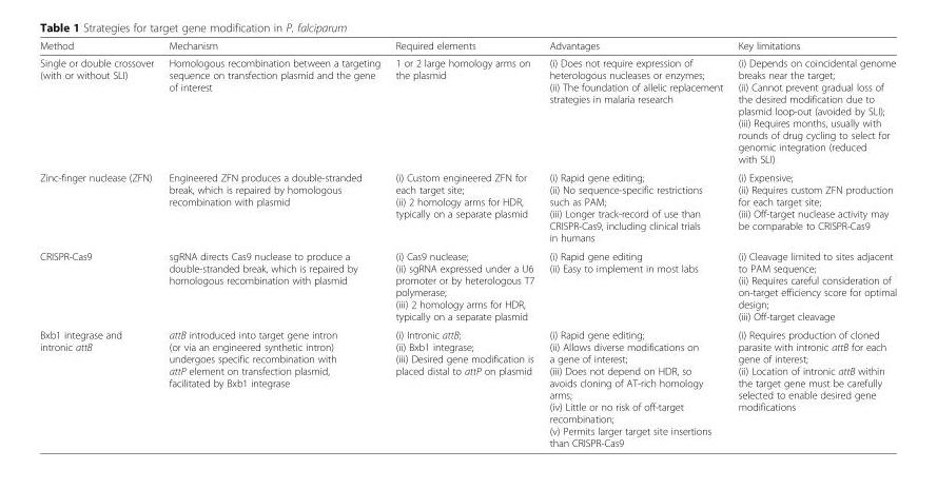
<table><thead><tr><td>Method</td><td>Mechanism</td><td>Required elements</td><td>Advantages</td><td>Key limitations</td></tr></thead><tbody><tr><td>Single or double crossover (with or without SLI)</td><td>Homologous recombination between a targeting sequence on transfection plasmid and the gene of interest</td><td>1 or 2 large homology arms on the plasmid</td><td>(i) Does not require expression of heterologous nucleases or enzymes; (ii) The foundation of allelic replacement strategies in malaria research</td><td>(i) Depends on coincidental genome breaks near the target; (ii) Cannot prevent gradual loss of the desired modification due to plasmid loop-out (avoided by SLI); (iii) Requires months, usually with rounds of drug cycling to select for genomic integration (reduced with SLI)</td></tr><tr><td>Zinc-finger nuclease (ZFN)</td><td>Engineered ZFN produces a double-stranded break, which is repaired by homologous recombination with plasmid</td><td>(i) Custom engineered ZFN for each target site; (ii) 2 homology arms for HDR, typically on a separate plasmid</td><td>(i) Rapid gene editing; (ii) No sequence-specific restrictions such as PAM; (iii) Longer track-record of use than CRISPR-Cas9, including clinical trials in humans</td><td>(i) Expensive; (ii) Requires custom ZFN production for each target site; (iii) Off-target nuclease activity may be comparable to CRISPR-Cas9</td></tr><tr><td>CRISPR-Cas9</td><td>sgRNA directs Cas9 nuclease to produce a double-stranded break, which is repaired by homologous recombination with plasmid</td><td>(i) Cas9 nuclease; (ii) sgRNA expressed under a U6 promoter or by heterologous T7 polymerase; (iii) 2 homology arms for HDR, typically on a separate plasmid</td><td>(i) Rapid gene editing (ii) Easy to implement in most labs</td><td>(i) Cleavage limited to sites adjacent to PAM sequence; (ii) Requires careful consideration of on-target efficiency score for optimal design; (iii) Off-target cleavage</td></tr><tr><td>Bxb1 integrase and intronic attB</td><td>attB introduced into target gene intron (or via an engineered synthetic intron) undergoes specific recombination with attP element on transfection plasmid, facilitated by Bxb1 integrase</td><td>(i) Intronic attB; (ii) Bxb1 integrase; (iii) Desired gene modification is placed distal to attP on plasmid</td><td>(i) Rapid gene editing; (ii) Allows diverse modifications on a gene of interest; (iii) Does not depend on HDR, so avoids cloning of AT-rich homology arms; (iv) Little or no risk of off-target recombination; (v) Permits larger target site insertions than CRISPR-Cas9</td><td>(i) Requires production of cloned parasite with intronic attB for each gene of interest; (ii) Location of intronic attB within the target gene must be carefully selected to enable desired gene modifications</td></tr></tbody></table>